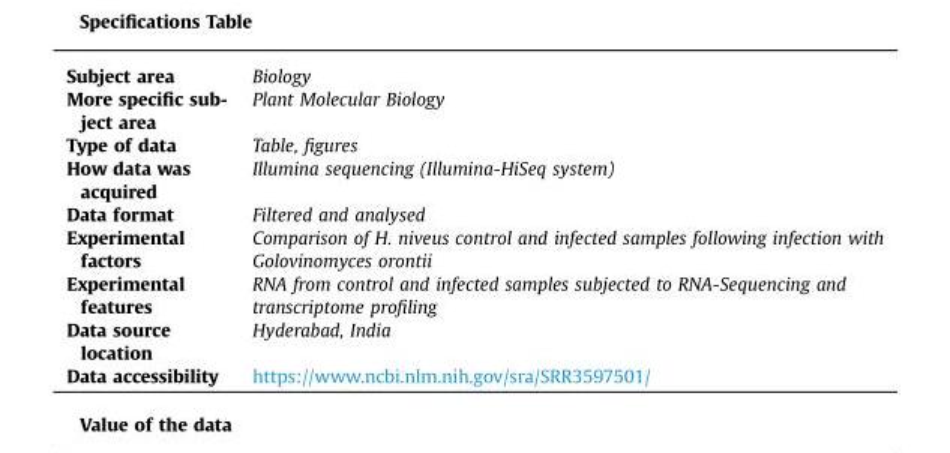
<table><tbody><tr><td>Subject area</td><td>Biology</td></tr><tr><td>More specific sub- ject area</td><td>Plant Molecular Biology</td></tr><tr><td>Type of data</td><td>Table, figures</td></tr><tr><td>How data was acquired</td><td>Illumina sequencing (Illumina-HiSeq system)</td></tr><tr><td>Data format</td><td>Filtered and analysed</td></tr><tr><td>Experimental factors</td><td>Comparison of H. niveus control and infected samples following infection with Golovinomyces orontii</td></tr><tr><td>Experimental features</td><td>RNA from control and infected samples subjected to RNA-Sequencing and transcriptome profiling</td></tr><tr><td>Data source location</td><td>Hyderabad, India</td></tr><tr><td>Data accessibility</td><td>https://www.ncbi.nlm.nih.gov/sra/SRR3597501/</td></tr></tbody></table>